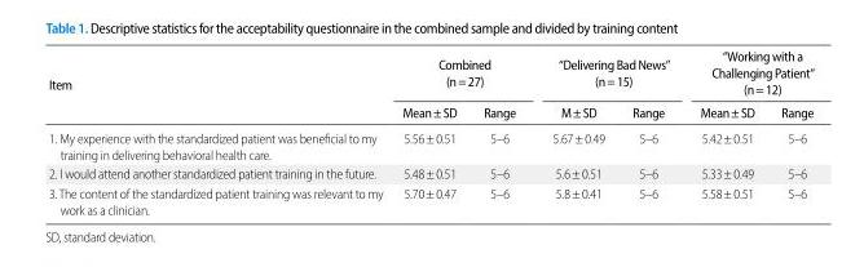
<table><thead><tr><td rowspan="2">Item</td><td colspan="2">Combined (n=27)</td><td colspan="2">“Delivering Bad News” (n=15)</td><td colspan="2">“Working with a Challenging Patient” (n=12)</td></tr><tr><td>Mean±SD</td><td>Range</td><td>M±SD</td><td>Range</td><td>Mean±SD</td><td>Range</td></tr></thead><tbody><tr><td>1. My experience with the standardized patient was beneficial to my training in delivering behavioral health care.</td><td>5.56±0.51</td><td>5–6</td><td>5.67±0.49</td><td>5–6</td><td>5.42±0.51</td><td>5–6</td></tr><tr><td>2. I would attend another standardized patient training in the future.</td><td>5.48±0.51</td><td>5–6</td><td>5.6±0.51</td><td>5–6</td><td>5.33±0.49</td><td>5–6</td></tr><tr><td>3. The content of the standardized patient training was relevant to my work as a clinician.</td><td>5.70±0.47</td><td>5–6</td><td>5.8±0.41</td><td>5–6</td><td>5.58±0.51</td><td>5–6</td></tr></tbody></table>